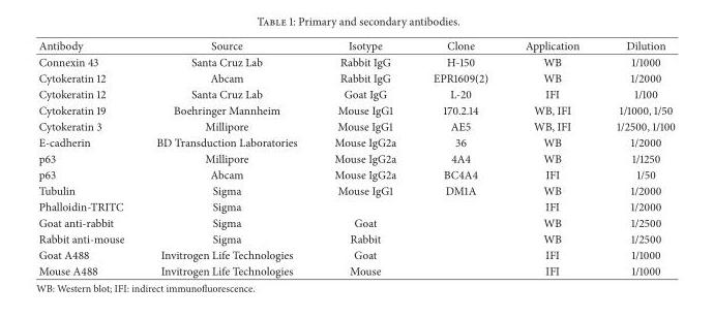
<table><thead><tr><td>Antibody</td><td>Source</td><td>Isotype</td><td>Clone</td><td>Application</td><td>Dilution</td></tr></thead><tbody><tr><td>Connexin 43</td><td>Santa Cruz Lab</td><td>Rabbit IgG</td><td>H-150</td><td>WB</td><td>1/1000</td></tr><tr><td>Cytokeratin 12</td><td>Abcam</td><td>Rabbit IgG</td><td>EPR1609(2)</td><td>WB</td><td>1/2000</td></tr><tr><td>Cytokeratin 12</td><td>Santa Cruz Lab</td><td>Goat IgG</td><td>L-20</td><td>IFI</td><td>1/100</td></tr><tr><td>Cytokeratin 19</td><td>Boehringer Mannheim</td><td>Mouse IgG1</td><td>170.2.14</td><td>WB, IFI</td><td>1/1000, 1/50</td></tr><tr><td>Cytokeratin 3</td><td>Millipore</td><td>Mouse IgG1</td><td>AE5</td><td>WB, IFI</td><td>1/2500, 1/100</td></tr><tr><td>E-cadherin</td><td>BD Transduction Laboratories</td><td>Mouse IgG2a</td><td>36</td><td>WB</td><td>1/2000</td></tr><tr><td>p63</td><td>Millipore</td><td>Mouse IgG2a</td><td>4A4</td><td>WB</td><td>1/1250</td></tr><tr><td>p63</td><td>Abcam</td><td>Mouse IgG2a</td><td>BC4A4</td><td>IFI</td><td>1/50</td></tr><tr><td>Tubulin</td><td>Sigma</td><td>Mouse IgG1</td><td>DM1A</td><td>WB</td><td>1/2000</td></tr><tr><td>Phalloidin-TRITC</td><td>Sigma</td><td></td><td></td><td>IFI</td><td>1/2000</td></tr><tr><td>Goat anti-rabbit</td><td>Sigma</td><td>Goat</td><td></td><td>WB</td><td>1/2500</td></tr><tr><td>Rabbit anti-mouse</td><td>Sigma</td><td>Rabbit</td><td></td><td>WB</td><td>1/2500</td></tr><tr><td>Goat A488</td><td>Invitrogen Life Technologies</td><td>Goat</td><td></td><td>IFI</td><td>1/1000</td></tr><tr><td>Mouse A488</td><td>Invitrogen Life Technologies</td><td>Mouse</td><td></td><td>IFI</td><td>1/1000</td></tr></tbody></table>